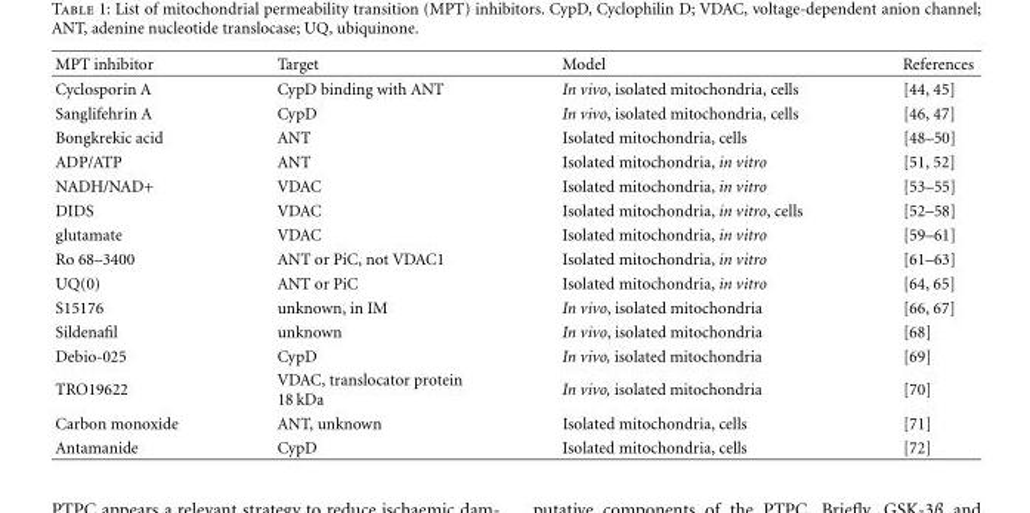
<table><thead><tr><td>MPT inhibitor</td><td>Target</td><td>Model</td><td>References</td></tr></thead><tbody><tr><td>Cyclosporin A</td><td>CypD binding with ANT</td><td>In vivo, isolated mitochondria, cells</td><td>[44, 45]</td></tr><tr><td>Sanglifehrin A</td><td>CypD</td><td>In vivo, isolated mitochondria, cells</td><td>[46, 47]</td></tr><tr><td>Bongkrekic acid</td><td>ANT</td><td>Isolated mitochondria, cells</td><td>[48–50]</td></tr><tr><td>ADP/ATP</td><td>ANT</td><td>Isolated mitochondria, in vitro</td><td>[51, 52]</td></tr><tr><td>NADH/NAD+</td><td>VDAC</td><td>Isolated mitochondria, in vitro</td><td>[53–55]</td></tr><tr><td>DIDS</td><td>VDAC</td><td>Isolated mitochondria, in vitro, cells</td><td>[52–58]</td></tr><tr><td>glutamate</td><td>VDAC</td><td>Isolated mitochondria, in vitro</td><td>[59–61]</td></tr><tr><td>Ro 68–3400</td><td>ANT or PiC, not VDAC1</td><td>Isolated mitochondria, in vitro</td><td>[61–63]</td></tr><tr><td>UQ(0)</td><td>ANT or PiC</td><td>Isolated mitochondria, in vitro</td><td>[64, 65]</td></tr><tr><td>S15176</td><td>unknown, in IM</td><td>In vivo, isolated mitochondria</td><td>[66, 67]</td></tr><tr><td>Sildenafil</td><td>unknown</td><td>In vivo, isolated mitochondria</td><td>[68]</td></tr><tr><td>Debio-025</td><td>CypD</td><td>In vivo, isolated mitochondria</td><td>[69]</td></tr><tr><td>TRO19622</td><td>VDAC, translocator protein 18 kDa</td><td>In vivo, isolated mitochondria</td><td>[70]</td></tr><tr><td>Carbon monoxide</td><td>ANT, unknown</td><td>Isolated mitochondria, cells</td><td>[71]</td></tr><tr><td>Antamanide</td><td>CypD</td><td>Isolated mitochondria, cells</td><td>[72]</td></tr></tbody></table>